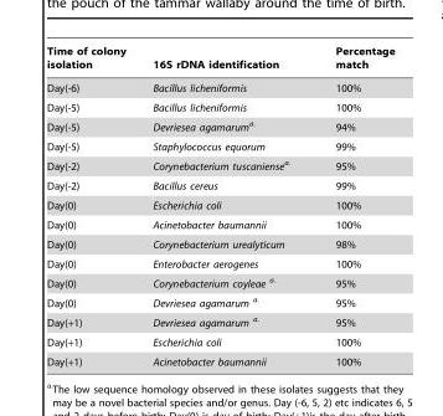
<table><thead><tr><td>Time of colony isolation</td><td>16S rDNA identification</td><td>Percentage match</td></tr></thead><tbody><tr><td>Day(-6)</td><td>Bacillus licheniformis</td><td>100%</td></tr><tr><td>Day(-5)</td><td>Bacillus licheniformis</td><td>100%</td></tr><tr><td>Day(-5)</td><td>Devriesea agamaruma.</td><td>94%</td></tr><tr><td>Day(-5)</td><td>Staphylococcus equorum</td><td>99%</td></tr><tr><td>Day(-2)</td><td>Corynebacterium tuscaniensea.</td><td>95%</td></tr><tr><td>Day(-2)</td><td>Bacillus cereus</td><td>99%</td></tr><tr><td>Day(0)</td><td>Escherichia coli</td><td>100%</td></tr><tr><td>Day(0)</td><td>Acinetobacter baumannii</td><td>100%</td></tr><tr><td>Day(0)</td><td>Corynebacterium urealyticum</td><td>98%</td></tr><tr><td>Day(0)</td><td>Enterobacter aerogenes</td><td>100%</td></tr><tr><td>Day(0)</td><td>Corynebacterium coyleae a.</td><td>95%</td></tr><tr><td>Day(0)</td><td>Devriesea agamarum a.</td><td>95%</td></tr><tr><td>Day(+1)</td><td>Devriesea agamarum a.</td><td>95%</td></tr><tr><td>Day(+1)</td><td>Escherichia coli</td><td>100%</td></tr><tr><td>Day(+1)</td><td>Acinetobacter baumannii</td><td>100%</td></tr></tbody></table>